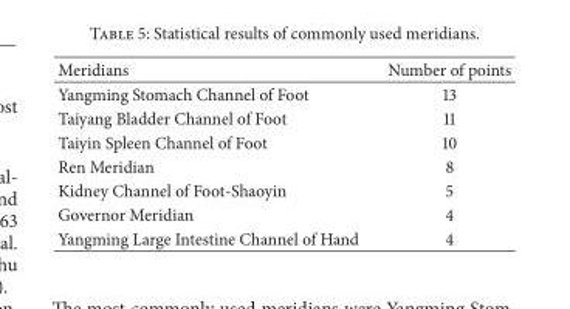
<table><thead><tr><td>Meridians</td><td>Number of points</td></tr></thead><tbody><tr><td>Yangming Stomach Channel of Foot</td><td>13</td></tr><tr><td>Taiyang Bladder Channel of Foot</td><td>11</td></tr><tr><td>Taiyin Spleen Channel of Foot</td><td>10</td></tr><tr><td>Ren Meridian</td><td>8</td></tr><tr><td>Kidney Channel of Foot-Shaoyin</td><td>5</td></tr><tr><td>Governor Meridian</td><td>4</td></tr><tr><td>Yangming Large Intestine Channel of Hand</td><td>4</td></tr></tbody></table>